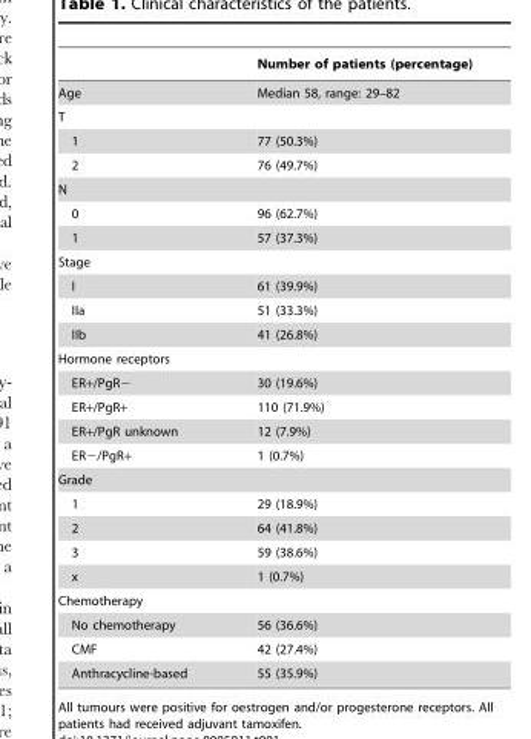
<table><thead><tr><td></td><td>Number of patients (percentage)</td></tr></thead><tbody><tr><td>Age</td><td>Median 58, range: 29–82</td></tr><tr><td colspan="2">T</td></tr><tr><td>1</td><td>77 (50.3%)</td></tr><tr><td>2</td><td>76 (49.7%)</td></tr><tr><td colspan="2">N</td></tr><tr><td>0</td><td>96 (62.7%)</td></tr><tr><td>1</td><td>57 (37.3%)</td></tr><tr><td colspan="2">Stage</td></tr><tr><td>I</td><td>61 (39.9%)</td></tr><tr><td>IIa</td><td>51 (33.3%)</td></tr><tr><td>IIb</td><td>41 (26.8%)</td></tr><tr><td colspan="2">Hormone receptors</td></tr><tr><td>ER+/PgR−</td><td>30 (19.6%)</td></tr><tr><td>ER+/PgR+</td><td>110 (71.9%)</td></tr><tr><td>ER+/PgR unknown</td><td>12 (7.9%)</td></tr><tr><td>ER−/PgR+</td><td>1 (0.7%)</td></tr><tr><td colspan="2">Grade</td></tr><tr><td>1</td><td>29 (18.9%)</td></tr><tr><td>2</td><td>64 (41.8%)</td></tr><tr><td>3</td><td>59 (38.6%)</td></tr><tr><td>x</td><td>1 (0.7%)</td></tr><tr><td colspan="2">Chemotherapy</td></tr><tr><td>No chemotherapy</td><td>56 (36.6%)</td></tr><tr><td>CMF</td><td>42 (27.4%)</td></tr><tr><td>Anthracycline-based</td><td>55 (35.9%)</td></tr></tbody></table>